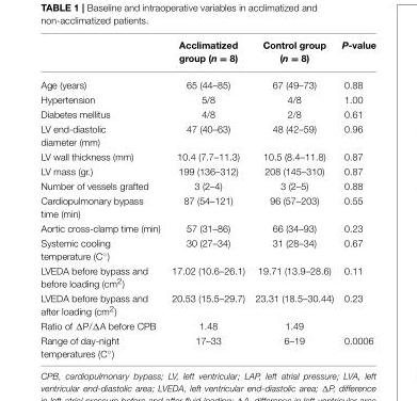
<table><thead><tr><td></td><td>Acclimatized group (n = 8)</td><td>Control group (n = 8)</td><td>P-value</td></tr></thead><tbody><tr><td>Age (years)</td><td>65 (44–85)</td><td>67 (49–73)</td><td>0.88</td></tr><tr><td>Hypertension</td><td>5/8</td><td>4/8</td><td>1.00</td></tr><tr><td>Diabetes mellitus</td><td>4/8</td><td>2/8</td><td>0.61</td></tr><tr><td>LV end-diastolic diameter (mm)</td><td>47 (40–63)</td><td>48 (42–59)</td><td>0.96</td></tr><tr><td>LV wall thickness (mm)</td><td>10.4 (7.7–11.3)</td><td>10.5 (8.4–11.8)</td><td>0.87</td></tr><tr><td>LV mass (gr.)</td><td>199 (136–312)</td><td>208 (145–310)</td><td>0.87</td></tr><tr><td>Number of vessels grafted</td><td>3 (2–4)</td><td>3 (2–5)</td><td>0.88</td></tr><tr><td>Cardiopulmonary bypass time (min)</td><td>87 (54–121)</td><td>96 (57–203)</td><td>0.55</td></tr><tr><td>Aortic cross-clamp time (min)</td><td>57 (31–86)</td><td>66 (34–93)</td><td>0.23</td></tr><tr><td>Systemic cooling temperature (C◦)</td><td>30 (27–34)</td><td>31 (28–34)</td><td>0.67</td></tr><tr><td>LVEDA before bypass and before loading (cm<sup>2</sup>)</td><td>17.02 (10.6–26.1)</td><td>19.71 (13.9–28.6)</td><td>0.11</td></tr><tr><td>LVEDA before bypass and after loading (cm<sup>2</sup>)</td><td>20.53 (15.5–29.7)</td><td>23.31 (18.5–30.44)</td><td>0.23</td></tr><tr><td>Ratio of ΔP/ΔA before CPB</td><td>1.48</td><td>1.49</td><td></td></tr><tr><td>Range of day-night temperatures (C◦)</td><td>17–33</td><td>6–19</td><td>0.0006</td></tr></tbody></table>